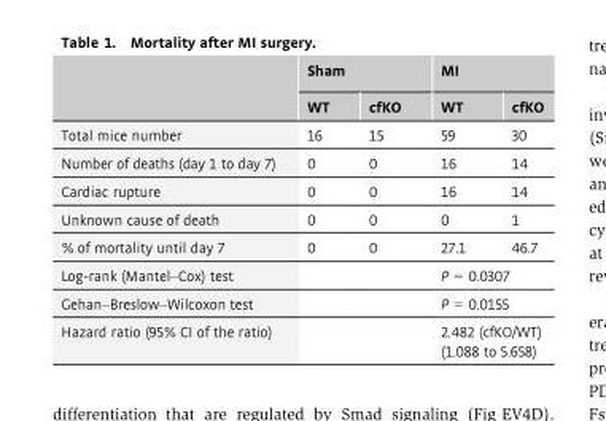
<table><thead><tr><td rowspan="2"></td><td colspan="2">Sham</td><td colspan="2">MI</td></tr><tr><td>WT</td><td>cfKO</td><td>WT</td><td>cfKO</td></tr></thead><tbody><tr><td>Total mice number</td><td>16</td><td>15</td><td>59</td><td>30</td></tr><tr><td>Number of deaths (day 1 to day 7)</td><td>0</td><td>0</td><td>16</td><td>14</td></tr><tr><td>Cardiac rupture</td><td>0</td><td>0</td><td>16</td><td>14</td></tr><tr><td>Unknown cause of death</td><td>0</td><td>0</td><td>0</td><td>1</td></tr><tr><td>% of mortality until day 7</td><td>0</td><td>0</td><td>27.1</td><td>46.7</td></tr><tr><td>Log-rank (Mantel–Cox) test</td><td></td><td></td><td colspan="2">P = 0.0307</td></tr><tr><td>Gehan–Breslow–Wilcoxon test</td><td></td><td></td><td colspan="2">P = 0.0155</td></tr><tr><td>Hazard ratio (95% CI of the ratio)</td><td></td><td></td><td colspan="2">2.482 (cfKO/WT) (1.088 to 5.658)</td></tr></tbody></table>